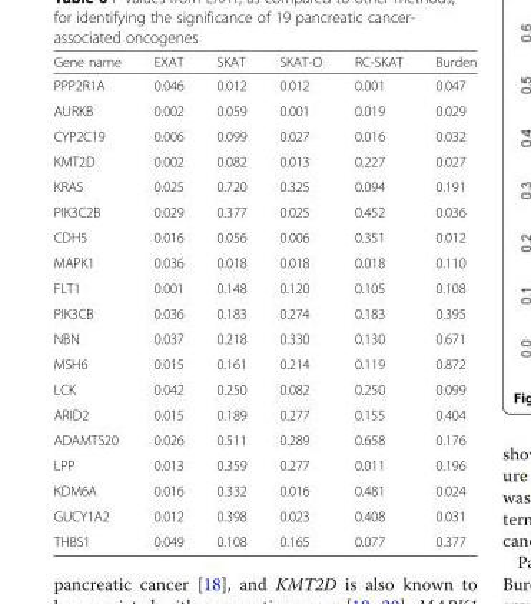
<table><thead><tr><td>Gene name</td><td>EXAT</td><td>SKAT</td><td>SKAT-O</td><td>RC-SKAT</td><td>Burden</td></tr></thead><tbody><tr><td>PPP2R1A</td><td>0.046</td><td>0.012</td><td>0.012</td><td>0.001</td><td>0.047</td></tr><tr><td>AURKB</td><td>0.002</td><td>0.059</td><td>0.001</td><td>0.019</td><td>0.029</td></tr><tr><td>CYP2C19</td><td>0.006</td><td>0.099</td><td>0.027</td><td>0.016</td><td>0.032</td></tr><tr><td>KMT2D</td><td>0.002</td><td>0.082</td><td>0.013</td><td>0.227</td><td>0.027</td></tr><tr><td>KRAS</td><td>0.025</td><td>0.720</td><td>0.325</td><td>0.094</td><td>0.191</td></tr><tr><td>PIK3C2B</td><td>0.029</td><td>0.377</td><td>0.025</td><td>0.452</td><td>0.036</td></tr><tr><td>CDH5</td><td>0.016</td><td>0.056</td><td>0.006</td><td>0.351</td><td>0.012</td></tr><tr><td>MAPK1</td><td>0.036</td><td>0.018</td><td>0.018</td><td>0.018</td><td>0.110</td></tr><tr><td>FLT1</td><td>0.001</td><td>0.148</td><td>0.120</td><td>0.105</td><td>0.108</td></tr><tr><td>PIK3CB</td><td>0.036</td><td>0.183</td><td>0.274</td><td>0.183</td><td>0.395</td></tr><tr><td>NBN</td><td>0.037</td><td>0.218</td><td>0.330</td><td>0.130</td><td>0.671</td></tr><tr><td>MSH6</td><td>0.015</td><td>0.161</td><td>0.214</td><td>0.119</td><td>0.872</td></tr><tr><td>LCK</td><td>0.042</td><td>0.250</td><td>0.082</td><td>0.250</td><td>0.099</td></tr><tr><td>ARID2</td><td>0.015</td><td>0.189</td><td>0.277</td><td>0.155</td><td>0.404</td></tr><tr><td>ADAMTS20</td><td>0.026</td><td>0.511</td><td>0.289</td><td>0.658</td><td>0.176</td></tr><tr><td>LPP</td><td>0.013</td><td>0.359</td><td>0.277</td><td>0.011</td><td>0.196</td></tr><tr><td>KDM6A</td><td>0.016</td><td>0.332</td><td>0.016</td><td>0.481</td><td>0.024</td></tr><tr><td>GUCY1A2</td><td>0.012</td><td>0.398</td><td>0.023</td><td>0.408</td><td>0.031</td></tr><tr><td>THBS1</td><td>0.049</td><td>0.108</td><td>0.165</td><td>0.077</td><td>0.377</td></tr></tbody></table>